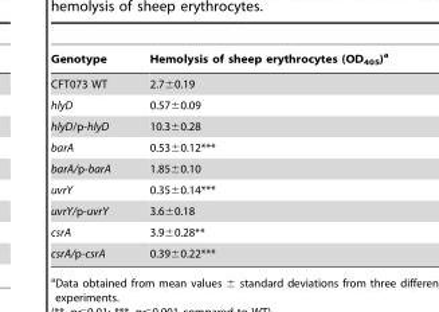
<table><thead><tr><td>Genotype</td><td>Hemolysis of sheep erythrocytes (OD<sub>405</sub>)<sup>a</sup></td></tr></thead><tbody><tr><td>CFT073 WT</td><td>2.7±0.19</td></tr><tr><td>hlyD</td><td>0.57±0.09</td></tr><tr><td>hlyD/p-hlyD</td><td>10.3±0.28</td></tr><tr><td>barA</td><td>0.53±0.12***</td></tr><tr><td>barA/p-barA</td><td>1.85±0.10</td></tr><tr><td>uvrY</td><td>0.35±0.14***</td></tr><tr><td>uvrY/p-uvrY</td><td>3.6±0.18</td></tr><tr><td>csrA</td><td>3.9±0.28**</td></tr><tr><td>csrA/p-csrA</td><td>0.39±0.22***</td></tr></tbody></table>